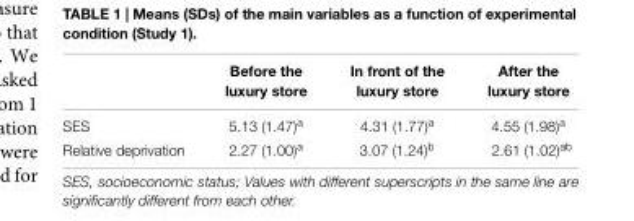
<table><thead><tr><td></td><td>Before the luxury store</td><td>In front of the luxury store</td><td>After the luxury store</td></tr></thead><tbody><tr><td>SES</td><td>5.13 (1.47)<sup>a</sup></td><td>4.31 (1.77)<sup>a</sup></td><td>4.55 (1.98)<sup>a</sup></td></tr><tr><td>Relative deprivation</td><td>2.27 (1.00)<sup>a</sup></td><td>3.07 (1.24)<sup>b</sup></td><td>2.61 (1.02)<sup>ab</sup></td></tr></tbody></table>